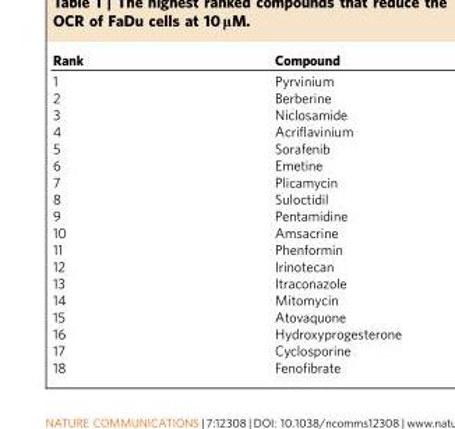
<table><thead><tr><td>Rank</td><td>Compound</td></tr></thead><tbody><tr><td>1</td><td>Pyrvinium</td></tr><tr><td>2</td><td>Berberine</td></tr><tr><td>3</td><td>Niclosamide</td></tr><tr><td>4</td><td>Acriflavinium</td></tr><tr><td>5</td><td>Sorafenib</td></tr><tr><td>6</td><td>Emetine</td></tr><tr><td>7</td><td>Plicamycin</td></tr><tr><td>8</td><td>Suloctidil</td></tr><tr><td>9</td><td>Pentamidine</td></tr><tr><td>10</td><td>Amsacrine</td></tr><tr><td>11</td><td>Phenformin</td></tr><tr><td>12</td><td>Irinotecan</td></tr><tr><td>13</td><td>Itraconazole</td></tr><tr><td>14</td><td>Mitomycin</td></tr><tr><td>15</td><td>Atovaquone</td></tr><tr><td>16</td><td>Hydroxyprogesterone</td></tr><tr><td>17</td><td>Cyclosporine</td></tr><tr><td>18</td><td>Fenofibrate</td></tr></tbody></table>